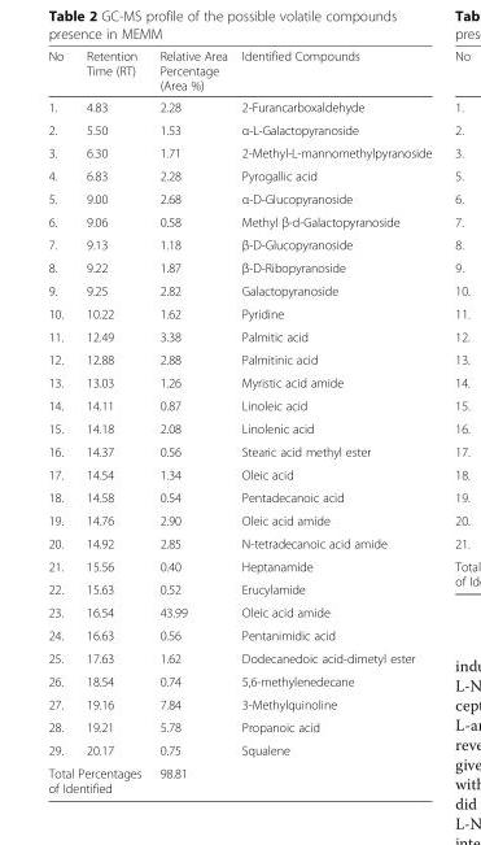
<table><thead><tr><td>No</td><td>Retention Time (RT)</td><td>Relative Area Percentage (Area %)</td><td>Identified Compounds</td></tr></thead><tbody><tr><td>1.</td><td>4.83</td><td>2.28</td><td>2-Furancarboxaldehyde</td></tr><tr><td>2.</td><td>5.50</td><td>1.53</td><td>α-L-Galactopyranoside</td></tr><tr><td>3.</td><td>6.30</td><td>1.71</td><td>2-Methyl-L-mannomethylpyranoside</td></tr><tr><td>4.</td><td>6.83</td><td>2.28</td><td>Pyrogallic acid</td></tr><tr><td>5.</td><td>9.00</td><td>2.68</td><td>α-D-Glucopyranoside</td></tr><tr><td>6.</td><td>9.06</td><td>0.58</td><td>Methyl β-d-Galactopyranoside</td></tr><tr><td>7.</td><td>9.13</td><td>1.18</td><td>β-D-Glucopyranoside</td></tr><tr><td>8.</td><td>9.22</td><td>1.87</td><td>β-D-Ribopyranoside</td></tr><tr><td>9.</td><td>9.25</td><td>2.82</td><td>Galactopyranoside</td></tr><tr><td>10.</td><td>10.22</td><td>1.62</td><td>Pyridine</td></tr><tr><td>11.</td><td>12.49</td><td>3.38</td><td>Palmitic acid</td></tr><tr><td>12.</td><td>12.88</td><td>2.88</td><td>Palmitinic acid</td></tr><tr><td>13.</td><td>13.03</td><td>1.26</td><td>Myristic acid amide</td></tr><tr><td>14.</td><td>14.11</td><td>0.87</td><td>Linoleic acid</td></tr><tr><td>15.</td><td>14.18</td><td>2.08</td><td>Linolenic acid</td></tr><tr><td>16.</td><td>14.37</td><td>0.56</td><td>Stearic acid methyl ester</td></tr><tr><td>17.</td><td>14.54</td><td>1.34</td><td>Oleic acid</td></tr><tr><td>18.</td><td>14.58</td><td>0.54</td><td>Pentadecanoic acid</td></tr><tr><td>19.</td><td>14.76</td><td>2.90</td><td>Oleic acid amide</td></tr><tr><td>20.</td><td>14.92</td><td>2.85</td><td>N-tetradecanoic acid amide</td></tr><tr><td>21.</td><td>15.56</td><td>0.40</td><td>Heptanamide</td></tr><tr><td>22.</td><td>15.63</td><td>0.52</td><td>Erucylamide</td></tr><tr><td>23.</td><td>16.54</td><td>43.99</td><td>Oleic acid amide</td></tr><tr><td>24.</td><td>16.63</td><td>0.56</td><td>Pentanimidic acid</td></tr><tr><td>25.</td><td>17.63</td><td>1.62</td><td>Dodecanedoic acid-dimetyl ester</td></tr><tr><td>26.</td><td>18.54</td><td>0.74</td><td>5,6-methylenedecane</td></tr><tr><td>27.</td><td>19.16</td><td>7.84</td><td>3-Methylquinoline</td></tr><tr><td>28.</td><td>19.21</td><td>5.78</td><td>Propanoic acid</td></tr><tr><td>29.</td><td>20.17</td><td>0.75</td><td>Squalene</td></tr><tr><td colspan="2">Total Percentages of Identified</td><td>98.81</td><td></td></tr></tbody></table>